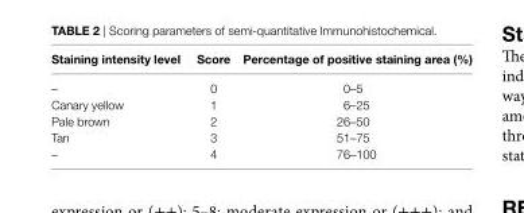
<table><thead><tr><td>staining intensity level</td><td>score</td><td>Percentage of positive staining area (%)</td></tr></thead><tbody><tr><td>–</td><td>0</td><td>0–5</td></tr><tr><td>Canary yellow</td><td>1</td><td>6–25</td></tr><tr><td>Pale brown</td><td>2</td><td>26–50</td></tr><tr><td>Tan</td><td>3</td><td>51–75</td></tr><tr><td>–</td><td>4</td><td>76–100</td></tr></tbody></table>